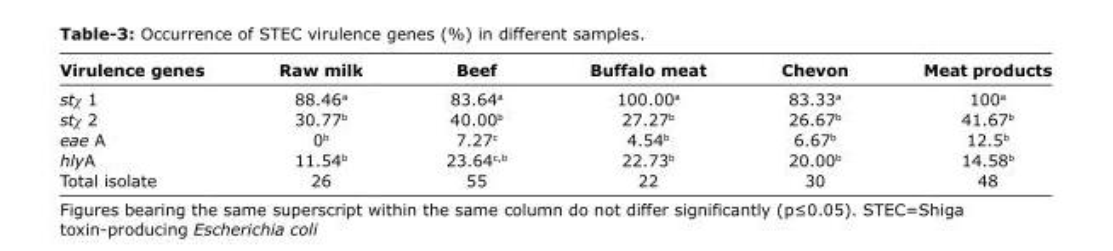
<table><thead><tr><td>Virulence genes</td><td>Raw milk</td><td>Beef</td><td>Buffalo meat</td><td>Chevon</td><td>Meat products</td></tr></thead><tbody><tr><td>stχ 1</td><td>88.46<sup>a</sup></td><td>83.64<sup>a</sup></td><td>100.00<sup>a</sup></td><td>83.33<sup>a</sup></td><td>100<sup>a</sup></td></tr><tr><td>stχ 2</td><td>30.77<sup>b</sup></td><td>40.00<sup>b</sup></td><td>27.27<sup>b</sup></td><td>26.67<sup>b</sup></td><td>41.67<sup>b</sup></td></tr><tr><td>eae A</td><td>0<sup>b</sup></td><td>7.27<sup>c</sup></td><td>4.54<sup>b</sup></td><td>6.67<sup>b</sup></td><td>12.5<sup>b</sup></td></tr><tr><td>hlyA</td><td>11.54<sup>b</sup></td><td>23.64<sup>c,b</sup></td><td>22.73<sup>b</sup></td><td>20.00<sup>b</sup></td><td>14.58<sup>b</sup></td></tr><tr><td>Total isolate</td><td>26</td><td>55</td><td>22</td><td>30</td><td>48</td></tr></tbody></table>